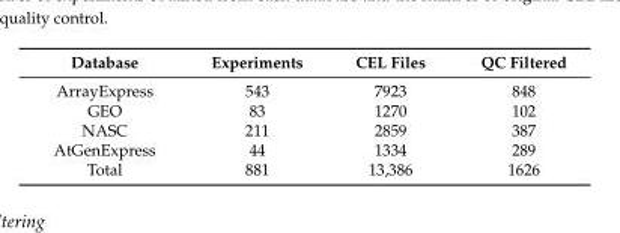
<table><thead><tr><td>Database</td><td>Experiments</td><td>CEL Files</td><td>QC Filtered</td></tr></thead><tbody><tr><td>ArrayExpress</td><td>543</td><td>7923</td><td>848</td></tr><tr><td>GEO</td><td>83</td><td>1270</td><td>102</td></tr><tr><td>NASC</td><td>211</td><td>2859</td><td>387</td></tr><tr><td>AtGenExpress</td><td>44</td><td>1334</td><td>289</td></tr><tr><td>Total</td><td>881</td><td>13,386</td><td>1626</td></tr></tbody></table>